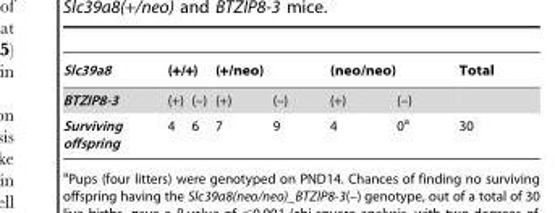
<table><thead><tr><td rowspan="2">Slc39a8 BTZIP8-3</td><td colspan="2">(+/+)</td><td colspan="2">(+/neo)</td><td colspan="2">(neo/neo)</td><td rowspan="2">Total</td></tr><tr><td>(+)</td><td>(–)</td><td>(+)</td><td>(–)</td><td>(+)</td><td>(–)</td></tr></thead><tbody><tr><td>Surviving offspring</td><td>4</td><td>6</td><td>7</td><td>9</td><td>4</td><td>0<sup>a</sup></td><td>30</td></tr></tbody></table>